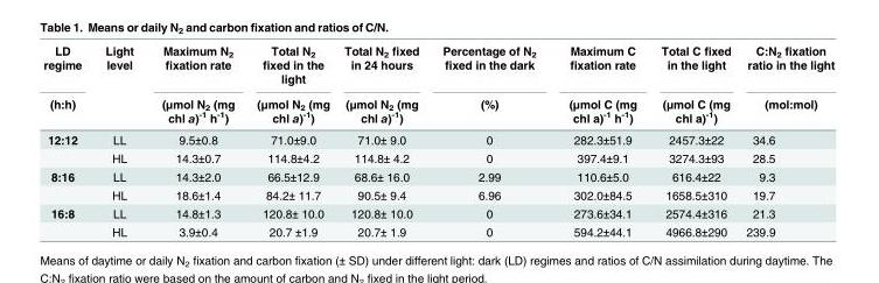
<table><thead><tr><td rowspan="2">LD regime (h:h)</td><td rowspan="2">Light level</td><td rowspan="2">Maximum N<sub>2</sub> fixation rate (μmol N<sub>2</sub> (mg chl a)<sup>-1</sup> h<sup>-1</sup>)</td><td rowspan="2">Total N<sub>2</sub> fixed in the light (μmol N<sub>2</sub> (mg chl a)<sup>-1</sup>)</td><td rowspan="2">Total N<sub>2</sub> fixed in 24 hours (μmol N<sub>2</sub> (mg chl a)<sup>-1</sup>)</td><td rowspan="2">Percentage of N<sub>2</sub> fixed in the dark (%)</td><td rowspan="2">Maximum C fixation rate (μmol C (mg chl a)<sup>-1</sup> h<sup>-1</sup>)</td><td rowspan="2">Total C fixed in the light (μmol C (mg chl a)<sup>-1</sup>)</td><td rowspan="2">C:N<sub>2</sub> fixation ratio in the light (mol:mol)</td></tr><tr></tr></thead><tbody><tr><td rowspan="2">12:12</td><td>LL</td><td>9.5±0.8</td><td>71.0±9.0</td><td>71.0± 9.0</td><td>0</td><td>282.3±51.9</td><td>2457.3±22</td><td>34.6</td></tr><tr><td>HL</td><td>14.3±0.7</td><td>114.8±4.2</td><td>114.8± 4.2</td><td>0</td><td>397.4±9.1</td><td>3274.3±93</td><td>28.5</td></tr><tr><td rowspan="2">8:16</td><td>LL</td><td>14.3±2.0</td><td>66.5±12.9</td><td>68.6± 16.0</td><td>2.99</td><td>110.6±5.0</td><td>616.4±22</td><td>9.3</td></tr><tr><td>HL</td><td>18.6±1.4</td><td>84.2± 11.7</td><td>90.5± 9.4</td><td>6.96</td><td>302.0±84.5</td><td>1658.5±310</td><td>19.7</td></tr><tr><td rowspan="2">16:8</td><td>LL</td><td>14.8±1.3</td><td>120.8± 10.0</td><td>120.8± 10.0</td><td>0</td><td>273.6±34.1</td><td>2574.4±316</td><td>21.3</td></tr><tr><td>HL</td><td>3.9±0.4</td><td>20.7 ±1.9</td><td>20.7± 1.9</td><td>0</td><td>594.2±44.1</td><td>4966.8±290</td><td>239.9</td></tr></tbody></table>